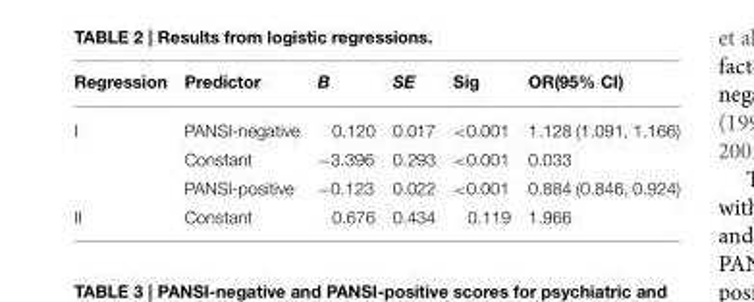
<table><thead><tr><td>Regression</td><td>Predictor</td><td>B</td><td>SE</td><td>Sig</td><td>OR(95% CI)</td></tr></thead><tbody><tr><td rowspan="3">I</td><td>PANSI-negative</td><td>0.120</td><td>0.017</td><td>&lt;0.001</td><td>1.128 (1.091, 1.166)</td></tr><tr><td>Constant</td><td>−3.396</td><td>0.293</td><td>&lt;0.001</td><td>0.033</td></tr><tr><td>PANSI-positive</td><td>−0.123</td><td>0.022</td><td>&lt;0.001</td><td>0.884 (0.846, 0.924)</td></tr><tr><td>II</td><td>Constant</td><td>0.676</td><td>0.434</td><td>0.119</td><td>1.966</td></tr></tbody></table>